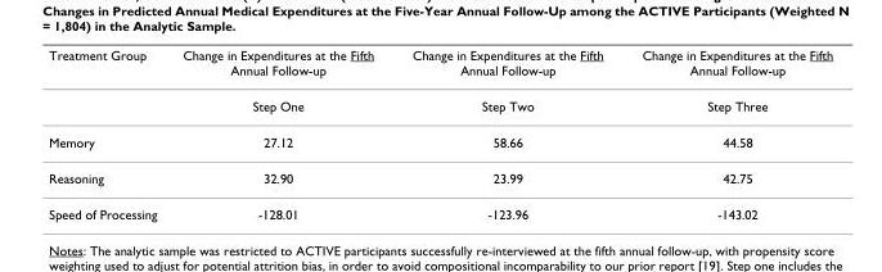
<table><thead><tr><td>Treatment Group</td><td>Change in Expenditures at the Fifth Annual Follow-up</td><td>Change in Expenditures at the Fifth Annual Follow-up</td><td>Change in Expenditures at the Fifth Annual Follow-up</td></tr></thead><tbody><tr><td></td><td>Step One</td><td>Step Two</td><td>Step Three</td></tr><tr><td>Memory</td><td>27.12</td><td>58.66</td><td>44.58</td></tr><tr><td>Reasoning</td><td>32.90</td><td>23.99</td><td>42.75</td></tr><tr><td>Speed of Processing</td><td>-128.01</td><td>-123.96</td><td>-143.02</td></tr></tbody></table>